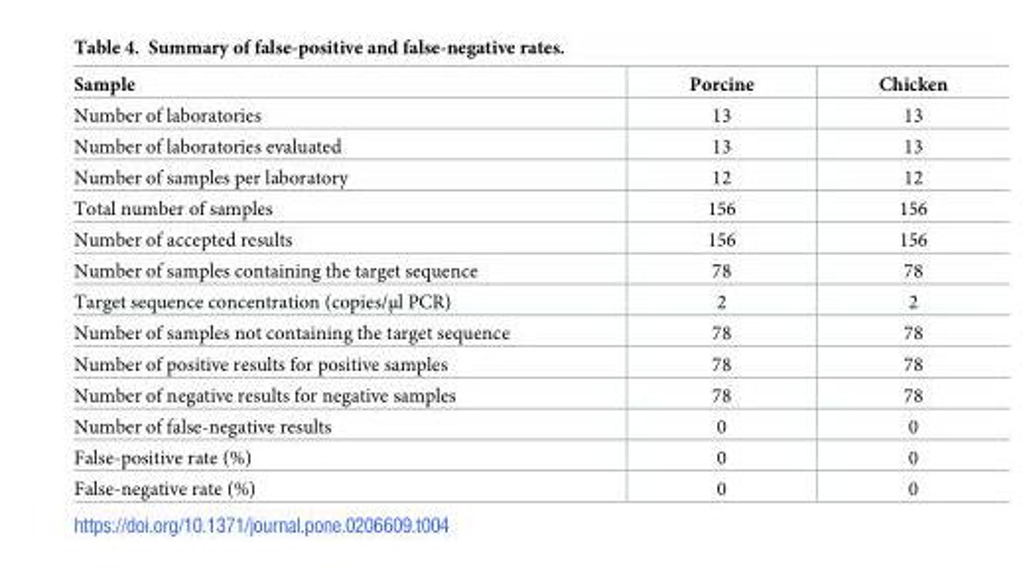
<table><thead><tr><td>Sample</td><td>Porcine</td><td>Chicken</td></tr></thead><tbody><tr><td>Number of laboratories</td><td>13</td><td>13</td></tr><tr><td>Number of laboratories evaluated</td><td>13</td><td>13</td></tr><tr><td>Number of samples per laboratory</td><td>12</td><td>12</td></tr><tr><td>Total number of samples</td><td>156</td><td>156</td></tr><tr><td>Number of accepted results</td><td>156</td><td>156</td></tr><tr><td>Number of samples containing the target sequence</td><td>78</td><td>78</td></tr><tr><td>Target sequence concentration (copies/μl PCR)</td><td>2</td><td>2</td></tr><tr><td>Number of samples not containing the target sequence</td><td>78</td><td>78</td></tr><tr><td>Number of positive results for positive samples</td><td>78</td><td>78</td></tr><tr><td>Number of negative results for negative samples</td><td>78</td><td>78</td></tr><tr><td>Number of false-negative results</td><td>0</td><td>0</td></tr><tr><td>False-positive rate (%)</td><td>0</td><td>0</td></tr><tr><td>False-negative rate (%)</td><td>0</td><td>0</td></tr></tbody></table>